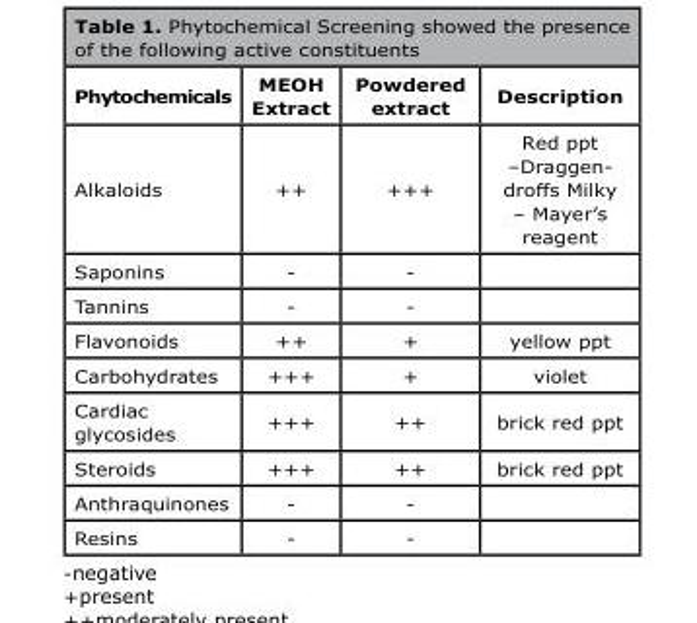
<table><thead><tr><td>Phytochemicals</td><td>MEOH Extract</td><td>Powdered extract</td><td>Description</td></tr></thead><tbody><tr><td>Alkaloids</td><td>++</td><td>+++</td><td>Red ppt –Draggen- droffs Milky – Mayer’s reagent</td></tr><tr><td>Saponins</td><td>-</td><td>-</td><td></td></tr><tr><td>Tannins</td><td>-</td><td>-</td><td></td></tr><tr><td>Flavonoids</td><td>++</td><td>+</td><td>yellow ppt</td></tr><tr><td>Carbohydrates</td><td>+++</td><td>+</td><td>violet</td></tr><tr><td>Cardiac glycosides</td><td>+++</td><td>++</td><td>brick red ppt</td></tr><tr><td>Steroids</td><td>+++</td><td>++</td><td>brick red ppt</td></tr><tr><td>Anthraquinones</td><td>-</td><td>-</td><td></td></tr><tr><td>Resins</td><td>-</td><td>-</td><td></td></tr></tbody></table>